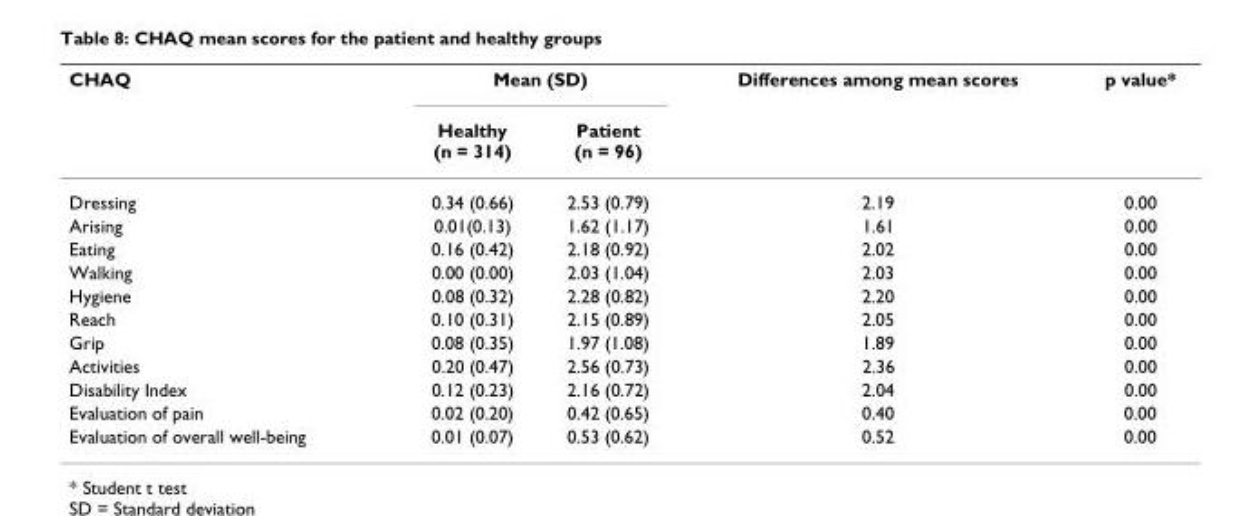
<table><thead><tr><td rowspan="2">CHAQ</td><td colspan="2">Mean (SD)</td><td rowspan="2">Differences among mean scores</td><td rowspan="2">p value*</td></tr><tr><td>Healthy (n = 314)</td><td>Patient (n = 96)</td></tr></thead><tbody><tr><td>Dressing</td><td>0.34 (0.66)</td><td>2.53 (0.79)</td><td>2.19</td><td>0.00</td></tr><tr><td>Arising</td><td>0.01(0.13)</td><td>1.62 (1.17)</td><td>1.61</td><td>0.00</td></tr><tr><td>Eating</td><td>0.16 (0.42)</td><td>2.18 (0.92)</td><td>2.02</td><td>0.00</td></tr><tr><td>Walking</td><td>0.00 (0.00)</td><td>2.03 (1.04)</td><td>2.03</td><td>0.00</td></tr><tr><td>Hygiene</td><td>0.08 (0.32)</td><td>2.28 (0.82)</td><td>2.20</td><td>0.00</td></tr><tr><td>Reach</td><td>0.10 (0.31)</td><td>2.15 (0.89)</td><td>2.05</td><td>0.00</td></tr><tr><td>Grip</td><td>0.08 (0.35)</td><td>1.97 (1.08)</td><td>1.89</td><td>0.00</td></tr><tr><td>Activities</td><td>0.20 (0.47)</td><td>2.56 (0.73)</td><td>2.36</td><td>0.00</td></tr><tr><td>Disability Index</td><td>0.12 (0.23)</td><td>2.16 (0.72)</td><td>2.04</td><td>0.00</td></tr><tr><td>Evaluation of pain</td><td>0.02 (0.20)</td><td>0.42 (0.65)</td><td>0.40</td><td>0.00</td></tr><tr><td>Evaluation of overall well-being</td><td>0.01 (0.07)</td><td>0.53 (0.62)</td><td>0.52</td><td>0.00</td></tr></tbody></table>